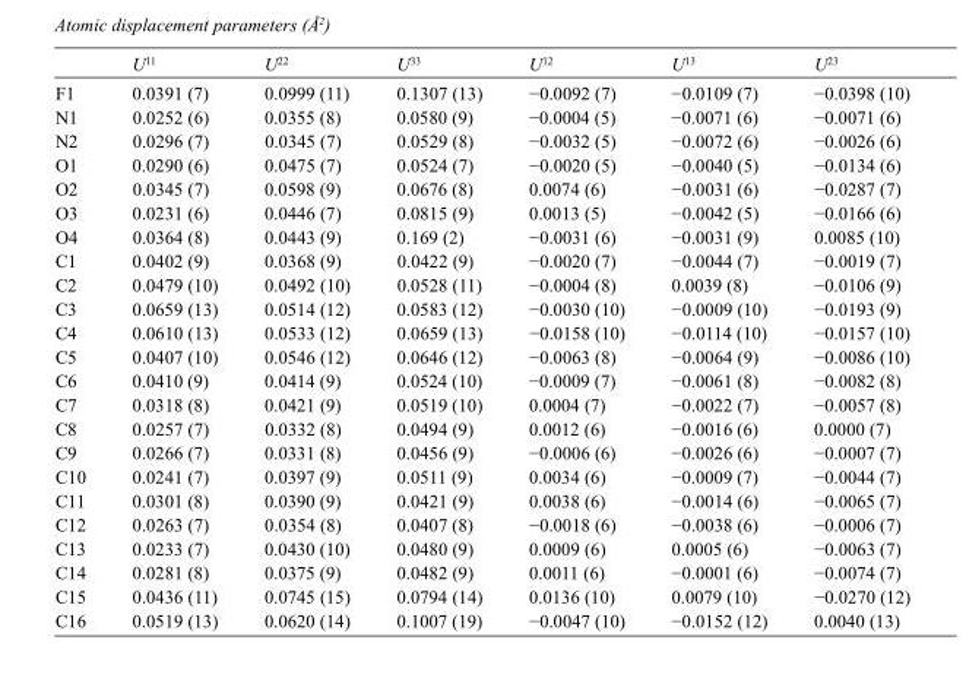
<table><thead><tr><td></td><td>U<sup>11</sup></td><td>U<sup>22</sup></td><td>U<sup>33</sup></td><td>U<sup>12</sup></td><td>U<sup>13</sup></td><td>U<sup>23</sup></td></tr></thead><tbody><tr><td>F1</td><td>0.0391 (7)</td><td>0.0999 (11)</td><td>0.1307 (13)</td><td>−0.0092 (7)</td><td>−0.0109 (7)</td><td>−0.0398 (10)</td></tr><tr><td>N1</td><td>0.0252 (6)</td><td>0.0355 (8)</td><td>0.0580 (9)</td><td>−0.0004 (5)</td><td>−0.0071 (6)</td><td>−0.0071 (6)</td></tr><tr><td>N2</td><td>0.0296 (7)</td><td>0.0345 (7)</td><td>0.0529 (8)</td><td>−0.0032 (5)</td><td>−0.0072 (6)</td><td>−0.0026 (6)</td></tr><tr><td>O1</td><td>0.0290 (6)</td><td>0.0475 (7)</td><td>0.0524 (7)</td><td>−0.0020 (5)</td><td>−0.0040 (5)</td><td>−0.0134 (6)</td></tr><tr><td>O2</td><td>0.0345 (7)</td><td>0.0598 (9)</td><td>0.0676 (8)</td><td>0.0074 (6)</td><td>−0.0031 (6)</td><td>−0.0287 (7)</td></tr><tr><td>O3</td><td>0.0231 (6)</td><td>0.0446 (7)</td><td>0.0815 (9)</td><td>0.0013 (5)</td><td>−0.0042 (5)</td><td>−0.0166 (6)</td></tr><tr><td>O4</td><td>0.0364 (8)</td><td>0.0443 (9)</td><td>0.169 (2)</td><td>−0.0031 (6)</td><td>−0.0031 (9)</td><td>0.0085 (10)</td></tr><tr><td>C1</td><td>0.0402 (9)</td><td>0.0368 (9)</td><td>0.0422 (9)</td><td>−0.0020 (7)</td><td>−0.0044 (7)</td><td>−0.0019 (7)</td></tr><tr><td>C2</td><td>0.0479 (10)</td><td>0.0492 (10)</td><td>0.0528 (11)</td><td>−0.0004 (8)</td><td>0.0039 (8)</td><td>−0.0106 (9)</td></tr><tr><td>C3</td><td>0.0659 (13)</td><td>0.0514 (12)</td><td>0.0583 (12)</td><td>−0.0030 (10)</td><td>−0.0009 (10)</td><td>−0.0193 (9)</td></tr><tr><td>C4</td><td>0.0610 (13)</td><td>0.0533 (12)</td><td>0.0659 (13)</td><td>−0.0158 (10)</td><td>−0.0114 (10)</td><td>−0.0157 (10)</td></tr><tr><td>C5</td><td>0.0407 (10)</td><td>0.0546 (12)</td><td>0.0646 (12)</td><td>−0.0063 (8)</td><td>−0.0064 (9)</td><td>−0.0086 (10)</td></tr><tr><td>C6</td><td>0.0410 (9)</td><td>0.0414 (9)</td><td>0.0524 (10)</td><td>−0.0009 (7)</td><td>−0.0061 (8)</td><td>−0.0082 (8)</td></tr><tr><td>C7</td><td>0.0318 (8)</td><td>0.0421 (9)</td><td>0.0519 (10)</td><td>0.0004 (7)</td><td>−0.0022 (7)</td><td>−0.0057 (8)</td></tr><tr><td>C8</td><td>0.0257 (7)</td><td>0.0332 (8)</td><td>0.0494 (9)</td><td>0.0012 (6)</td><td>−0.0016 (6)</td><td>0.0000 (7)</td></tr><tr><td>C9</td><td>0.0266 (7)</td><td>0.0331 (8)</td><td>0.0456 (9)</td><td>−0.0006 (6)</td><td>−0.0026 (6)</td><td>−0.0007 (7)</td></tr><tr><td>C10</td><td>0.0241 (7)</td><td>0.0397 (9)</td><td>0.0511 (9)</td><td>0.0034 (6)</td><td>−0.0009 (7)</td><td>−0.0044 (7)</td></tr><tr><td>C11</td><td>0.0301 (8)</td><td>0.0390 (9)</td><td>0.0421 (9)</td><td>0.0038 (6)</td><td>−0.0014 (6)</td><td>−0.0065 (7)</td></tr><tr><td>C12</td><td>0.0263 (7)</td><td>0.0354 (8)</td><td>0.0407 (8)</td><td>−0.0018 (6)</td><td>−0.0038 (6)</td><td>−0.0006 (7)</td></tr><tr><td>C13</td><td>0.0233 (7)</td><td>0.0430 (10)</td><td>0.0480 (9)</td><td>0.0009 (6)</td><td>0.0005 (6)</td><td>−0.0063 (7)</td></tr><tr><td>C14</td><td>0.0281 (8)</td><td>0.0375 (9)</td><td>0.0482 (9)</td><td>0.0011 (6)</td><td>−0.0001 (6)</td><td>−0.0074 (7)</td></tr><tr><td>C15</td><td>0.0436 (11)</td><td>0.0745 (15)</td><td>0.0794 (14)</td><td>0.0136 (10)</td><td>0.0079 (10)</td><td>−0.0270 (12)</td></tr><tr><td>C16</td><td>0.0519 (13)</td><td>0.0620 (14)</td><td>0.1007 (19)</td><td>−0.0047 (10)</td><td>−0.0152 (12)</td><td>0.0040 (13)</td></tr></tbody></table>